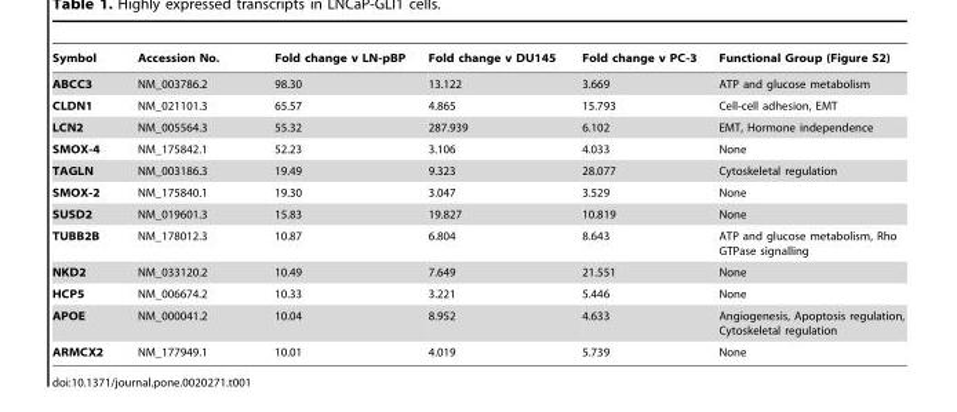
<table><thead><tr><td>Symbol</td><td>Accession No.</td><td>Fold change v LN-pBP</td><td>Fold change v DU145</td><td>Fold change v PC-3</td><td>Functional Group (Figure S2)</td></tr></thead><tbody><tr><td>ABCC3</td><td>NM_003786.2</td><td>98.30</td><td>13.122</td><td>3.669</td><td>ATP and glucose metabolism</td></tr><tr><td>CLDN1</td><td>NM_021101.3</td><td>65.57</td><td>4.865</td><td>15.793</td><td>Cell-cell adhesion, EMT</td></tr><tr><td>LCN2</td><td>NM_005564.3</td><td>55.32</td><td>287.939</td><td>6.102</td><td>EMT, Hormone independence</td></tr><tr><td>SMOX-4</td><td>NM_175842.1</td><td>52.23</td><td>3.106</td><td>4.033</td><td>None</td></tr><tr><td>TAGLN</td><td>NM_003186.3</td><td>19.49</td><td>9.323</td><td>28.077</td><td>Cytoskeletal regulation</td></tr><tr><td>SMOX-2</td><td>NM_175840.1</td><td>19.30</td><td>3.047</td><td>3.529</td><td>None</td></tr><tr><td>SUSD2</td><td>NM_019601.3</td><td>15.83</td><td>19.827</td><td>10.819</td><td>None</td></tr><tr><td>TUBB2B</td><td>NM_178012.3</td><td>10.87</td><td>6.804</td><td>8.643</td><td>ATP and glucose metabolism, Rho GTPase signalling</td></tr><tr><td>NKD2</td><td>NM_033120.2</td><td>10.49</td><td>7.649</td><td>21.551</td><td>None</td></tr><tr><td>HCP5</td><td>NM_006674.2</td><td>10.33</td><td>3.221</td><td>5.446</td><td>None</td></tr><tr><td>APOE</td><td>NM_000041.2</td><td>10.04</td><td>8.952</td><td>4.633</td><td>Angiogenesis, Apoptosis regulation, Cytoskeletal regulation</td></tr><tr><td>ARMCX2</td><td>NM_177949.1</td><td>10.01</td><td>4.019</td><td>5.739</td><td>None</td></tr></tbody></table>